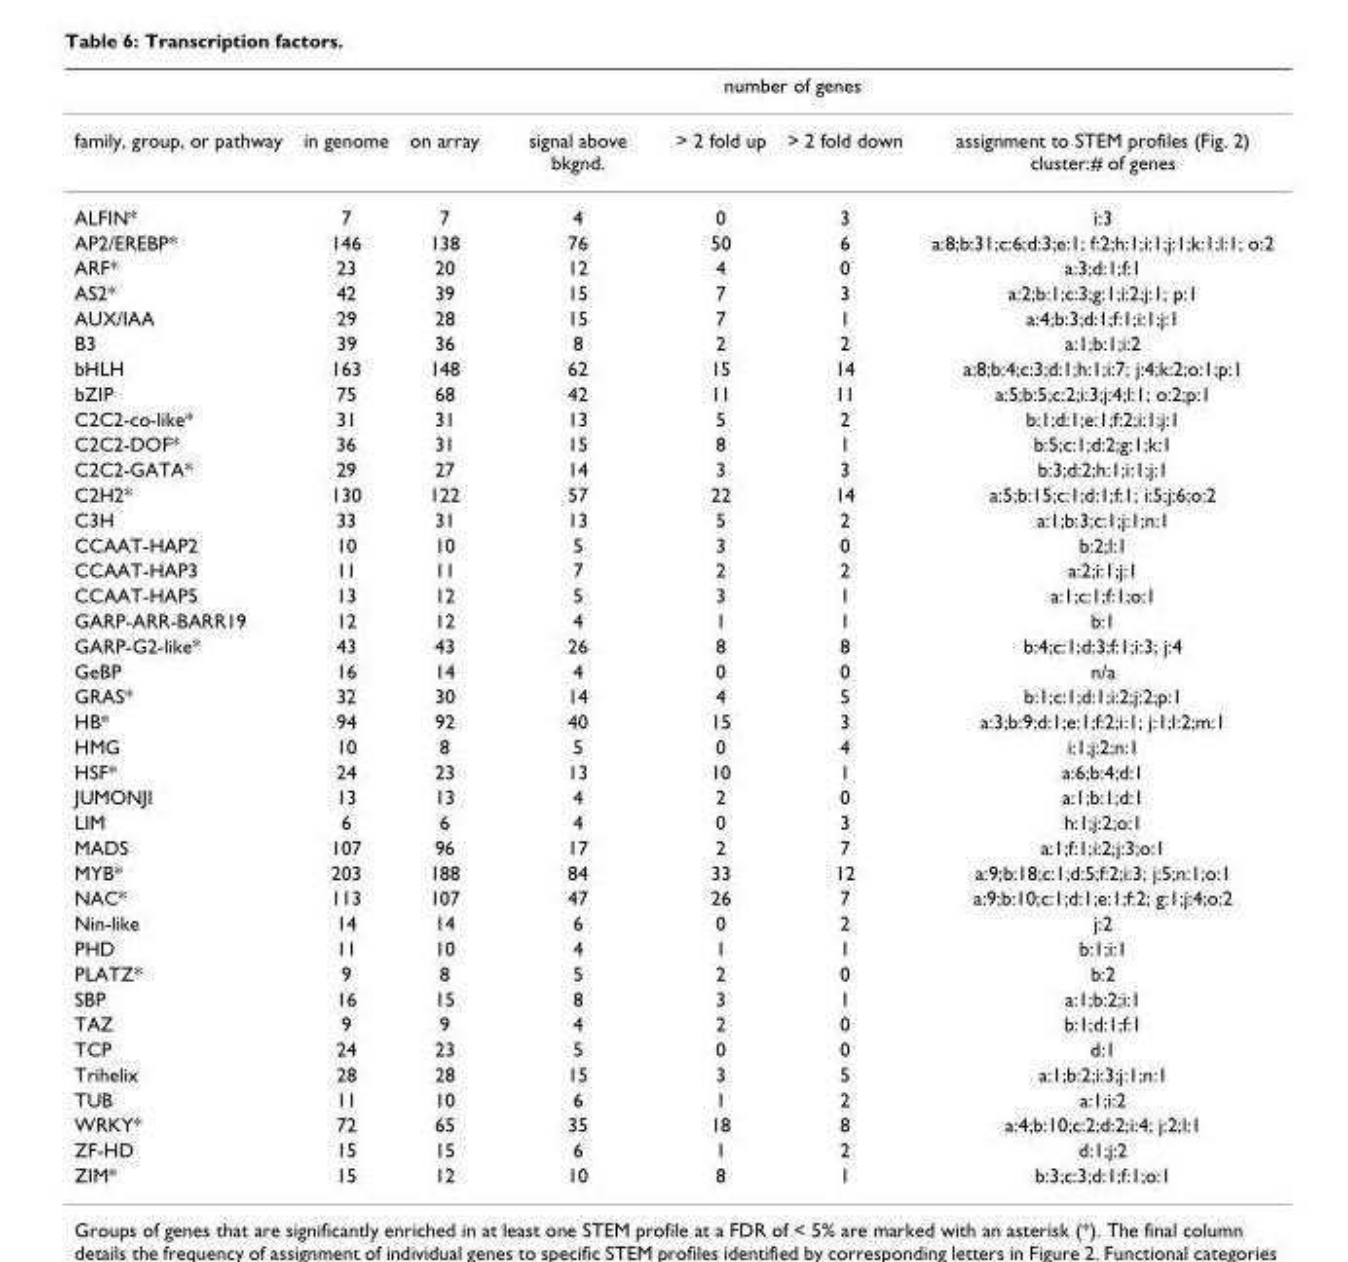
<table><thead><tr><td rowspan="2">family, group, or pathway</td><td colspan="6">number of genes</td></tr><tr><td>in genome</td><td>on array</td><td>signal above bkgnd.</td><td>&gt; 2 fold up</td><td>&gt; 2 fold down</td><td>assignment to STEM profiles (Fig. 2) cluster:# of genes</td></tr></thead><tbody><tr><td>ALFIN*</td><td>7</td><td>7</td><td>4</td><td>0</td><td>3</td><td>i:3</td></tr><tr><td>AP2/EREBP*</td><td>146</td><td>138</td><td>76</td><td>50</td><td>6</td><td>a:8;b:31;c:6;d:3;e:1; f:2;h:1;i:1;j:1;k:1;l:1; o:2</td></tr><tr><td>ARF*</td><td>23</td><td>20</td><td>12</td><td>4</td><td>0</td><td>a:3;d:1;f:1</td></tr><tr><td>AS2*</td><td>42</td><td>39</td><td>15</td><td>7</td><td>3</td><td>a:2;b:1;c:3;g:1;i:2;j:1; p:1</td></tr><tr><td>AUX/IAA</td><td>29</td><td>28</td><td>15</td><td>7</td><td>1</td><td>a:4;b:3;d:1;f:1;i:1;j:1</td></tr><tr><td>B3</td><td>39</td><td>36</td><td>8</td><td>2</td><td>2</td><td>a:1;b:1;i:2</td></tr><tr><td>bHLH</td><td>163</td><td>148</td><td>62</td><td>15</td><td>14</td><td>a:8;b:4;c:3;d:1;h:1;i:7; j:4;k:2;o:1;p:1</td></tr><tr><td>bZIP</td><td>75</td><td>68</td><td>42</td><td>11</td><td>11</td><td>a:5;b:5;c:2;i:3;j:4;l:1; o:2;p:1</td></tr><tr><td>C2C2-co-like*</td><td>31</td><td>31</td><td>13</td><td>5</td><td>2</td><td>b:1;d:1;e:1;f:2;i:1;j:1</td></tr><tr><td>C2C2-DOF*</td><td>36</td><td>31</td><td>15</td><td>8</td><td>1</td><td>b:5;c:1;d:2;g:1;k:1</td></tr><tr><td>C2C2-GATA*</td><td>29</td><td>27</td><td>14</td><td>3</td><td>3</td><td>b:3;d:2;h:1;i:1;j:1</td></tr><tr><td>C2H2*</td><td>130</td><td>122</td><td>57</td><td>22</td><td>14</td><td>a:5;b:15;c:1;d:1;f:1; i:5;j:6;o:2</td></tr><tr><td>C3H</td><td>33</td><td>31</td><td>13</td><td>5</td><td>2</td><td>a:1;b:3;c:1;j:1;n:1</td></tr><tr><td>CCAAT-HAP2</td><td>10</td><td>10</td><td>5</td><td>3</td><td>0</td><td>b:2;l:1</td></tr><tr><td>CCAAT-HAP3</td><td>11</td><td>11</td><td>7</td><td>2</td><td>2</td><td>a:2;i:1;j:1</td></tr><tr><td>CCAAT-HAP5</td><td>13</td><td>12</td><td>5</td><td>3</td><td>1</td><td>a:1;c:1;f:1;o:1</td></tr><tr><td>GARP-ARR-BARR19</td><td>12</td><td>12</td><td>4</td><td>1</td><td>1</td><td>b:1</td></tr><tr><td>GARP-G2-like*</td><td>43</td><td>43</td><td>26</td><td>8</td><td>8</td><td>b:4;c:1;d:3;f:1;i:3; j:4</td></tr><tr><td>GeBP</td><td>16</td><td>14</td><td>4</td><td>0</td><td>0</td><td>n/a</td></tr><tr><td>GRAS*</td><td>32</td><td>30</td><td>14</td><td>4</td><td>5</td><td>b:1;c:1;d:1;i:2;j:2;p:1</td></tr><tr><td>HB*</td><td>94</td><td>92</td><td>40</td><td>15</td><td>3</td><td>a:3;b:9;d:1;e:1;f:2;i:1; j:1;l:2;m:1</td></tr><tr><td>HMG</td><td>10</td><td>8</td><td>5</td><td>0</td><td>4</td><td>i:1;j:2;n:1</td></tr><tr><td>HSF*</td><td>24</td><td>23</td><td>13</td><td>10</td><td>1</td><td>a:6;b:4;d:1</td></tr><tr><td>JUMONJI</td><td>13</td><td>13</td><td>4</td><td>2</td><td>0</td><td>a:1;b:1;d:1</td></tr><tr><td>LIM</td><td>6</td><td>6</td><td>4</td><td>0</td><td>3</td><td>h:1;j:2;o:1</td></tr><tr><td>MADS</td><td>107</td><td>96</td><td>17</td><td>2</td><td>7</td><td>a:1;f:1;i:2;j:3;o:1</td></tr><tr><td>MYB*</td><td>203</td><td>188</td><td>84</td><td>33</td><td>12</td><td>a:9;b:18;c:1;d:5;f:2;i:3; j:5;n:1;o:1</td></tr><tr><td>NAC*</td><td>113</td><td>107</td><td>47</td><td>26</td><td>7</td><td>a:9;b:10;c:1;d:1;e:1;f:2; g:1;j:4;o:2</td></tr><tr><td>Nin-like</td><td>14</td><td>14</td><td>6</td><td>0</td><td>2</td><td>j:2</td></tr><tr><td>PHD</td><td>11</td><td>10</td><td>4</td><td>1</td><td>1</td><td>b:1;i:1</td></tr><tr><td>PLATZ*</td><td>9</td><td>8</td><td>5</td><td>2</td><td>0</td><td>b:2</td></tr><tr><td>SBP</td><td>16</td><td>15</td><td>8</td><td>3</td><td>1</td><td>a:1;b:2;i:1</td></tr><tr><td>TAZ</td><td>9</td><td>9</td><td>4</td><td>2</td><td>0</td><td>b:1;d:1;f:1</td></tr><tr><td>TCP</td><td>24</td><td>23</td><td>5</td><td>0</td><td>0</td><td>d:1</td></tr><tr><td>Trihelix</td><td>28</td><td>28</td><td>15</td><td>3</td><td>5</td><td>a:1;b:2;i:3;j:1;n:1</td></tr><tr><td>TUB</td><td>11</td><td>10</td><td>6</td><td>1</td><td>2</td><td>a:1;i:2</td></tr><tr><td>WRKY*</td><td>72</td><td>65</td><td>35</td><td>18</td><td>8</td><td>a:4;b:10;c:2;d:2;i:4; j:2;l:1</td></tr><tr><td>ZF-HD</td><td>15</td><td>15</td><td>6</td><td>1</td><td>2</td><td>d:1;j:2</td></tr><tr><td>ZIM*</td><td>15</td><td>12</td><td>10</td><td>8</td><td>1</td><td>b:3;c:3;d:1;f:1;o:1</td></tr></tbody></table>